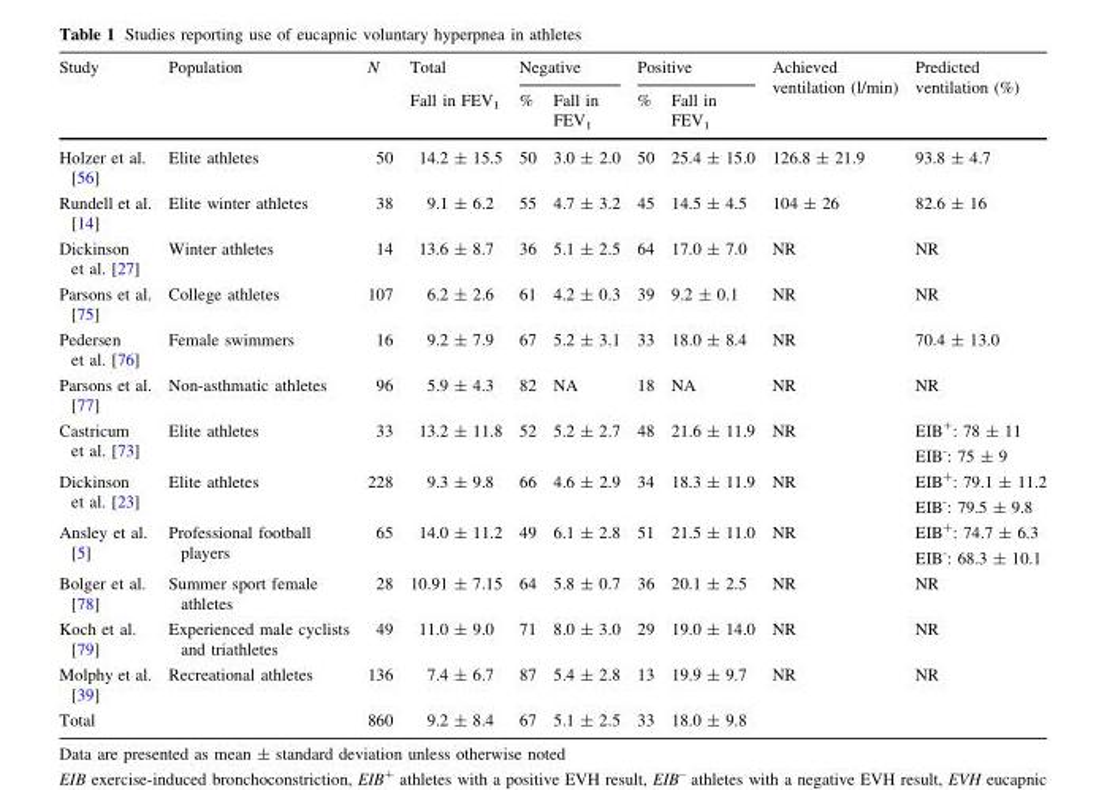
<table><thead><tr><td rowspan="2">Study</td><td rowspan="2">Population</td><td rowspan="2">N</td><td rowspan="2">Total Fall in FEV1</td><td colspan="2">Negative</td><td colspan="2">Positive</td><td rowspan="2">Achieved ventilation (l/min)</td><td rowspan="2">Predicted ventilation (%)</td></tr><tr><td>%</td><td>Fall in FEV<sub>1</sub></td><td>%</td><td>Fall in FEV<sub>1</sub></td></tr></thead><tbody><tr><td>Holzer et al. [56]</td><td>Elite athletes</td><td>50</td><td>14.2 ± 15.5</td><td>50</td><td>3.0 ± 2.0</td><td>50</td><td>25.4 ± 15.0</td><td>126.8 ± 21.9</td><td>93.8 ± 4.7</td></tr><tr><td>Rundell et al. [14]</td><td>Elite winter athletes</td><td>38</td><td>9.1 ± 6.2</td><td>55</td><td>4.7 ± 3.2</td><td>45</td><td>14.5 ± 4.5</td><td>104 ± 26</td><td>82.6 ± 16</td></tr><tr><td>Dickinson et al. [27]</td><td>Winter athletes</td><td>14</td><td>13.6 ± 8.7</td><td>36</td><td>5.1 ± 2.5</td><td>64</td><td>17.0 ± 7.0</td><td>NR</td><td>NR</td></tr><tr><td>Parsons et al. [75]</td><td>College athletes</td><td>107</td><td>6.2 ± 2.6</td><td>61</td><td>4.2 ± 0.3</td><td>39</td><td>9.2 ± 0.1</td><td>NR</td><td>NR</td></tr><tr><td>Pedersen et al. [76]</td><td>Female swimmers</td><td>16</td><td>9.2 ± 7.9</td><td>67</td><td>5.2 ± 3.1</td><td>33</td><td>18.0 ± 8.4</td><td>NR</td><td>70.4 ± 13.0</td></tr><tr><td>Parsons et al. [77]</td><td>Non-asthmatic athletes</td><td>96</td><td>5.9 ± 4.3</td><td>82</td><td>NA</td><td>18</td><td>NA</td><td>NR</td><td>NR</td></tr><tr><td>Castricum et al. [73]</td><td>Elite athletes</td><td>33</td><td>13.2 ± 11.8</td><td>52</td><td>5.2 ± 2.7</td><td>48</td><td>21.6 ± 11.9</td><td>NR</td><td>EIB<sup>+</sup>: 78 ± 11 EIB<sup>-</sup>: 75 ± 9</td></tr><tr><td>Dickinson et al. [23]</td><td>Elite athletes</td><td>228</td><td>9.3 ± 9.8</td><td>66</td><td>4.6 ± 2.9</td><td>34</td><td>18.3 ± 11.9</td><td>NR</td><td>EIB<sup>+</sup>: 79.1 ± 11.2 EIB<sup>-</sup>: 79.5 ± 9.8</td></tr><tr><td>Ansley et al. [5]</td><td>Professional football players</td><td>65</td><td>14.0 ± 11.2</td><td>49</td><td>6.1 ± 2.8</td><td>51</td><td>21.5 ± 11.0</td><td>NR</td><td>EIB<sup>+</sup>: 74.7 ± 6.3 EIB<sup>-</sup>: 68.3 ± 10.1</td></tr><tr><td>Bolger et al. [78]</td><td>Summer sport female athletes</td><td>28</td><td>10.91 ± 7.15</td><td>64</td><td>5.8 ± 0.7</td><td>36</td><td>20.1 ± 2.5</td><td>NR</td><td>NR</td></tr><tr><td>Koch et al. [79]</td><td>Experienced male cyclists and triathletes</td><td>49</td><td>11.0 ± 9.0</td><td>71</td><td>8.0 ± 3.0</td><td>29</td><td>19.0 ± 14.0</td><td>NR</td><td>NR</td></tr><tr><td>Molphy et al. [39]</td><td>Recreational athletes</td><td>136</td><td>7.4 ± 6.7</td><td>87</td><td>5.4 ± 2.8</td><td>13</td><td>19.9 ± 9.7</td><td>NR</td><td>NR</td></tr><tr><td>Total</td><td></td><td>860</td><td>9.2 ± 8.4</td><td>67</td><td>5.1 ± 2.5</td><td>33</td><td>18.0 ± 9.8</td><td></td><td></td></tr></tbody></table>